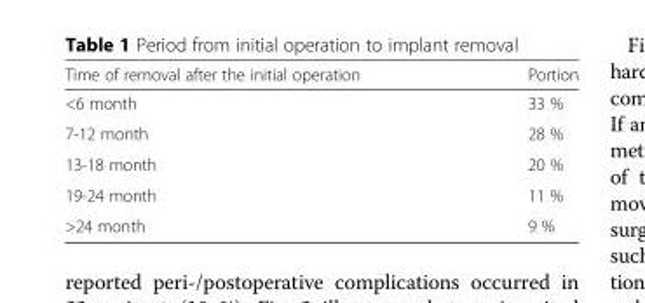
<table><thead><tr><td>Time of removal after the initial operation</td><td>Portion</td></tr></thead><tbody><tr><td>&lt;6 month</td><td>33 %</td></tr><tr><td>7-12 month</td><td>28 %</td></tr><tr><td>13-18 month</td><td>20 %</td></tr><tr><td>19-24 month</td><td>11 %</td></tr><tr><td>&gt;24 month</td><td>9 %</td></tr></tbody></table>